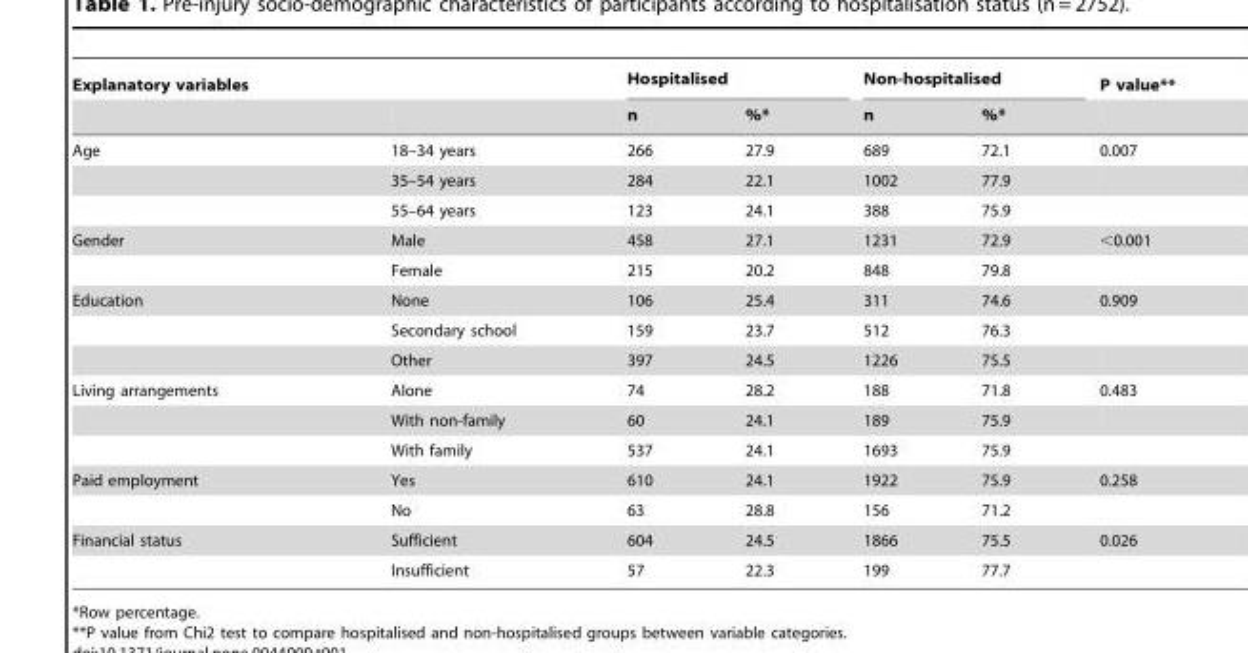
<table><thead><tr><td colspan="2">Explanatory variables</td><td colspan="2">Hospitalised</td><td colspan="2">Non-hospitalised</td><td rowspan="2">P value**</td></tr><tr><td></td><td></td><td>n</td><td>%*</td><td>n</td><td>%*</td></tr></thead><tbody><tr><td rowspan="3">Age</td><td>18–34 years</td><td>266</td><td>27.9</td><td>689</td><td>72.1</td><td>0.007</td></tr><tr><td>35–54 years</td><td>284</td><td>22.1</td><td>1002</td><td>77.9</td><td></td></tr><tr><td>55–64 years</td><td>123</td><td>24.1</td><td>388</td><td>75.9</td><td></td></tr><tr><td rowspan="2">Gender</td><td>Male</td><td>458</td><td>27.1</td><td>1231</td><td>72.9</td><td>&lt;0.001</td></tr><tr><td>Female</td><td>215</td><td>20.2</td><td>848</td><td>79.8</td><td></td></tr><tr><td rowspan="3">Education</td><td>None</td><td>106</td><td>25.4</td><td>311</td><td>74.6</td><td>0.909</td></tr><tr><td>Secondary school</td><td>159</td><td>23.7</td><td>512</td><td>76.3</td><td></td></tr><tr><td>Other</td><td>397</td><td>24.5</td><td>1226</td><td>75.5</td><td></td></tr><tr><td rowspan="3">Living arrangements</td><td>Alone</td><td>74</td><td>28.2</td><td>188</td><td>71.8</td><td>0.483</td></tr><tr><td>With non-family</td><td>60</td><td>24.1</td><td>189</td><td>75.9</td><td></td></tr><tr><td>With family</td><td>537</td><td>24.1</td><td>1693</td><td>75.9</td><td></td></tr><tr><td rowspan="2">Paid employment</td><td>Yes</td><td>610</td><td>24.1</td><td>1922</td><td>75.9</td><td>0.258</td></tr><tr><td>No</td><td>63</td><td>28.8</td><td>156</td><td>71.2</td><td></td></tr><tr><td rowspan="2">Financial status</td><td>Sufficient</td><td>604</td><td>24.5</td><td>1866</td><td>75.5</td><td>0.026</td></tr><tr><td>Insufficient</td><td>57</td><td>22.3</td><td>199</td><td>77.7</td><td></td></tr></tbody></table>